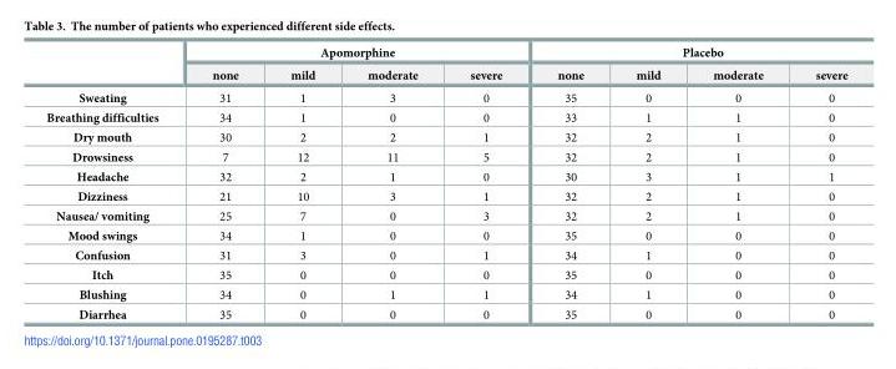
<table><thead><tr><td rowspan="2"></td><td colspan="4">Apomorphine</td><td colspan="4">Placebo</td></tr><tr><td>none</td><td>mild</td><td>moderate</td><td>severe</td><td>none</td><td>mild</td><td>moderate</td><td>severe</td></tr></thead><tbody><tr><td>Sweating</td><td>31</td><td>1</td><td>3</td><td>0</td><td>35</td><td>0</td><td>0</td><td>0</td></tr><tr><td>Breathing difficulties</td><td>34</td><td>1</td><td>0</td><td>0</td><td>33</td><td>1</td><td>1</td><td>0</td></tr><tr><td>Dry mouth</td><td>30</td><td>2</td><td>2</td><td>1</td><td>32</td><td>2</td><td>1</td><td>0</td></tr><tr><td>Drowsiness</td><td>7</td><td>12</td><td>11</td><td>5</td><td>32</td><td>2</td><td>1</td><td>0</td></tr><tr><td>Headache</td><td>32</td><td>2</td><td>1</td><td>0</td><td>30</td><td>3</td><td>1</td><td>1</td></tr><tr><td>Dizziness</td><td>21</td><td>10</td><td>3</td><td>1</td><td>32</td><td>2</td><td>1</td><td>0</td></tr><tr><td>Nausea/ vomiting</td><td>25</td><td>7</td><td>0</td><td>3</td><td>32</td><td>2</td><td>1</td><td>0</td></tr><tr><td>Mood swings</td><td>34</td><td>1</td><td>0</td><td>0</td><td>35</td><td>0</td><td>0</td><td>0</td></tr><tr><td>Confusion</td><td>31</td><td>3</td><td>0</td><td>1</td><td>34</td><td>1</td><td>0</td><td>0</td></tr><tr><td>Itch</td><td>35</td><td>0</td><td>0</td><td>0</td><td>35</td><td>0</td><td>0</td><td>0</td></tr><tr><td>Blushing</td><td>34</td><td>0</td><td>1</td><td>1</td><td>34</td><td>1</td><td>0</td><td>0</td></tr><tr><td>Diarrhea</td><td>35</td><td>0</td><td>0</td><td>0</td><td>35</td><td>0</td><td>0</td><td>0</td></tr></tbody></table>